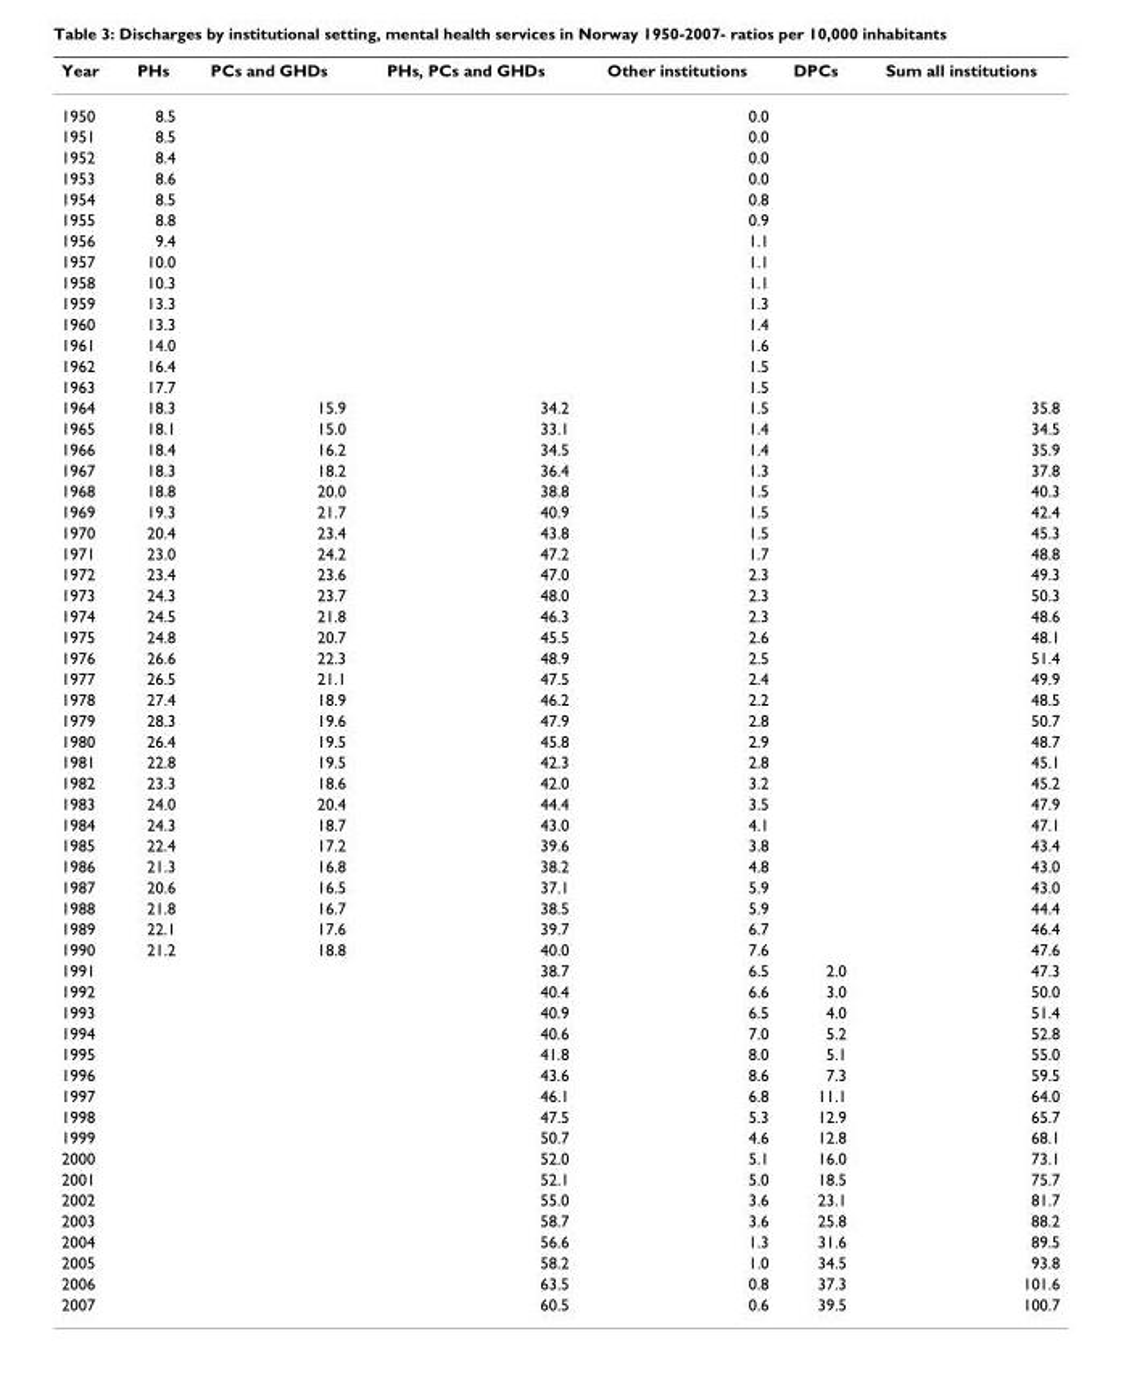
<table><thead><tr><td>Year</td><td>PHs</td><td>PCs and GHDs</td><td>PHs, PCs and GHDs</td><td>Other institutions</td><td>DPCs</td><td>Sum all institutions</td></tr></thead><tbody><tr><td>1950</td><td>8.5</td><td></td><td></td><td>0.0</td><td></td><td></td></tr><tr><td>1951</td><td>8.5</td><td></td><td></td><td>0.0</td><td></td><td></td></tr><tr><td>1952</td><td>8.4</td><td></td><td></td><td>0.0</td><td></td><td></td></tr><tr><td>1953</td><td>8.6</td><td></td><td></td><td>0.0</td><td></td><td></td></tr><tr><td>1954</td><td>8.5</td><td></td><td></td><td>0.8</td><td></td><td></td></tr><tr><td>1955</td><td>8.8</td><td></td><td></td><td>0.9</td><td></td><td></td></tr><tr><td>1956</td><td>9.4</td><td></td><td></td><td>1.1</td><td></td><td></td></tr><tr><td>1957</td><td>10.0</td><td></td><td></td><td>1.1</td><td></td><td></td></tr><tr><td>1958</td><td>10.3</td><td></td><td></td><td>1.1</td><td></td><td></td></tr><tr><td>1959</td><td>13.3</td><td></td><td></td><td>1.3</td><td></td><td></td></tr><tr><td>1960</td><td>13.3</td><td></td><td></td><td>1.4</td><td></td><td></td></tr><tr><td>1961</td><td>14.0</td><td></td><td></td><td>1.6</td><td></td><td></td></tr><tr><td>1962</td><td>16.4</td><td></td><td></td><td>1.5</td><td></td><td></td></tr><tr><td>1963</td><td>17.7</td><td></td><td></td><td>1.5</td><td></td><td></td></tr><tr><td>1964</td><td>18.3</td><td>15.9</td><td>34.2</td><td>1.5</td><td></td><td>35.8</td></tr><tr><td>1965</td><td>18.1</td><td>15.0</td><td>33.1</td><td>1.4</td><td></td><td>34.5</td></tr><tr><td>1966</td><td>18.4</td><td>16.2</td><td>34.5</td><td>1.4</td><td></td><td>35.9</td></tr><tr><td>1967</td><td>18.3</td><td>18.2</td><td>36.4</td><td>1.3</td><td></td><td>37.8</td></tr><tr><td>1968</td><td>18.8</td><td>20.0</td><td>38.8</td><td>1.5</td><td></td><td>40.3</td></tr><tr><td>1969</td><td>19.3</td><td>21.7</td><td>40.9</td><td>1.5</td><td></td><td>42.4</td></tr><tr><td>1970</td><td>20.4</td><td>23.4</td><td>43.8</td><td>1.5</td><td></td><td>45.3</td></tr><tr><td>1971</td><td>23.0</td><td>24.2</td><td>47.2</td><td>1.7</td><td></td><td>48.8</td></tr><tr><td>1972</td><td>23.4</td><td>23.6</td><td>47.0</td><td>2.3</td><td></td><td>49.3</td></tr><tr><td>1973</td><td>24.3</td><td>23.7</td><td>48.0</td><td>2.3</td><td></td><td>50.3</td></tr><tr><td>1974</td><td>24.5</td><td>21.8</td><td>46.3</td><td>2.3</td><td></td><td>48.6</td></tr><tr><td>1975</td><td>24.8</td><td>20.7</td><td>45.5</td><td>2.6</td><td></td><td>48.1</td></tr><tr><td>1976</td><td>26.6</td><td>22.3</td><td>48.9</td><td>2.5</td><td></td><td>51.4</td></tr><tr><td>1977</td><td>26.5</td><td>21.1</td><td>47.5</td><td>2.4</td><td></td><td>49.9</td></tr><tr><td>1978</td><td>27.4</td><td>18.9</td><td>46.2</td><td>2.2</td><td></td><td>48.5</td></tr><tr><td>1979</td><td>28.3</td><td>19.6</td><td>47.9</td><td>2.8</td><td></td><td>50.7</td></tr><tr><td>1980</td><td>26.4</td><td>19.5</td><td>45.8</td><td>2.9</td><td></td><td>48.7</td></tr><tr><td>1981</td><td>22.8</td><td>19.5</td><td>42.3</td><td>2.8</td><td></td><td>45.1</td></tr><tr><td>1982</td><td>23.3</td><td>18.6</td><td>42.0</td><td>3.2</td><td></td><td>45.2</td></tr><tr><td>1983</td><td>24.0</td><td>20.4</td><td>44.4</td><td>3.5</td><td></td><td>47.9</td></tr><tr><td>1984</td><td>24.3</td><td>18.7</td><td>43.0</td><td>4.1</td><td></td><td>47.1</td></tr><tr><td>1985</td><td>22.4</td><td>17.2</td><td>39.6</td><td>3.8</td><td></td><td>43.4</td></tr><tr><td>1986</td><td>21.3</td><td>16.8</td><td>38.2</td><td>4.8</td><td></td><td>43.0</td></tr><tr><td>1987</td><td>20.6</td><td>16.5</td><td>37.1</td><td>5.9</td><td></td><td>43.0</td></tr><tr><td>1988</td><td>21.8</td><td>16.7</td><td>38.5</td><td>5.9</td><td></td><td>44.4</td></tr><tr><td>1989</td><td>22.1</td><td>17.6</td><td>39.7</td><td>6.7</td><td></td><td>46.4</td></tr><tr><td>1990</td><td>21.2</td><td>18.8</td><td>40.0</td><td>7.6</td><td></td><td>47.6</td></tr><tr><td>1991</td><td></td><td></td><td>38.7</td><td>6.5</td><td>2.0</td><td>47.3</td></tr><tr><td>1992</td><td></td><td></td><td>40.4</td><td>6.6</td><td>3.0</td><td>50.0</td></tr><tr><td>1993</td><td></td><td></td><td>40.9</td><td>6.5</td><td>4.0</td><td>51.4</td></tr><tr><td>1994</td><td></td><td></td><td>40.6</td><td>7.0</td><td>5.2</td><td>52.8</td></tr><tr><td>1995</td><td></td><td></td><td>41.8</td><td>8.0</td><td>5.1</td><td>55.0</td></tr><tr><td>1996</td><td></td><td></td><td>43.6</td><td>8.6</td><td>7.3</td><td>59.5</td></tr><tr><td>1997</td><td></td><td></td><td>46.1</td><td>6.8</td><td>11.1</td><td>64.0</td></tr><tr><td>1998</td><td></td><td></td><td>47.5</td><td>5.3</td><td>12.9</td><td>65.7</td></tr><tr><td>1999</td><td></td><td></td><td>50.7</td><td>4.6</td><td>12.8</td><td>68.1</td></tr><tr><td>2000</td><td></td><td></td><td>52.0</td><td>5.1</td><td>16.0</td><td>73.1</td></tr><tr><td>2001</td><td></td><td></td><td>52.1</td><td>5.0</td><td>18.5</td><td>75.7</td></tr><tr><td>2002</td><td></td><td></td><td>55.0</td><td>3.6</td><td>23.1</td><td>81.7</td></tr><tr><td>2003</td><td></td><td></td><td>58.7</td><td>3.6</td><td>25.8</td><td>88.2</td></tr><tr><td>2004</td><td></td><td></td><td>56.6</td><td>1.3</td><td>31.6</td><td>89.5</td></tr><tr><td>2005</td><td></td><td></td><td>58.2</td><td>1.0</td><td>34.5</td><td>93.8</td></tr><tr><td>2006</td><td></td><td></td><td>63.5</td><td>0.8</td><td>37.3</td><td>101.6</td></tr><tr><td>2007</td><td></td><td></td><td>60.5</td><td>0.6</td><td>39.5</td><td>100.7</td></tr></tbody></table>